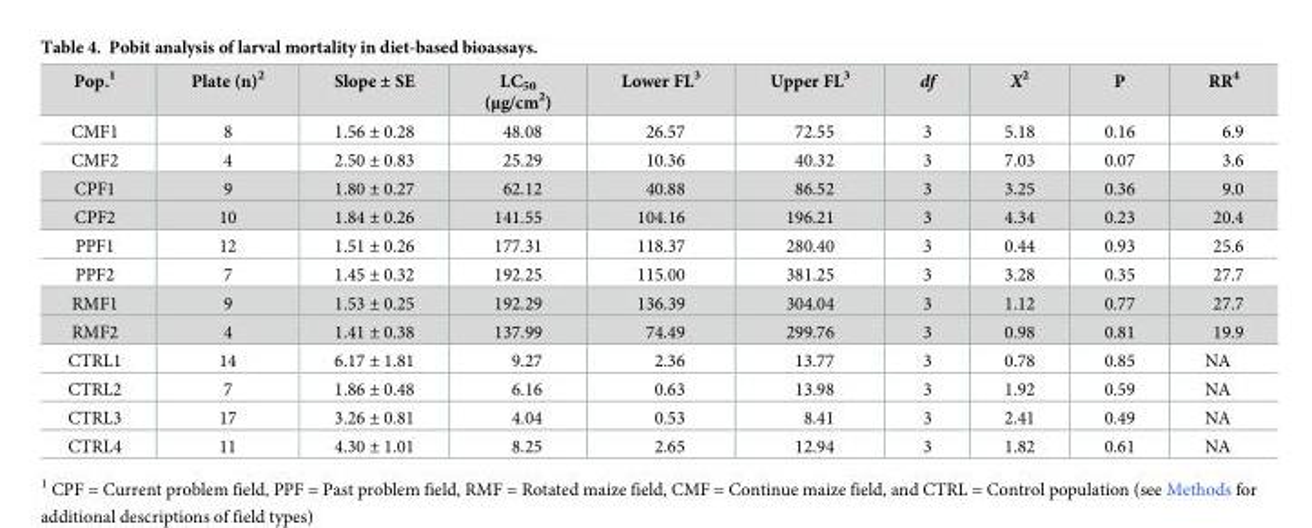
<table><thead><tr><td>Pop.<sup>1</sup></td><td>Plate (n)<sup>2</sup></td><td>Slope ± SE</td><td>LC<sub>50</sub> (μg/cm<sup>2</sup>)</td><td>Lower FL<sup>3</sup></td><td>Upper FL<sup>3</sup></td><td>df</td><td>X<sup>2</sup></td><td>P</td><td>RR<sup>4</sup></td></tr></thead><tbody><tr><td>CMF1</td><td>8</td><td>1.56 ± 0.28</td><td>48.08</td><td>26.57</td><td>72.55</td><td>3</td><td>5.18</td><td>0.16</td><td>6.9</td></tr><tr><td>CMF2</td><td>4</td><td>2.50 ± 0.83</td><td>25.29</td><td>10.36</td><td>40.32</td><td>3</td><td>7.03</td><td>0.07</td><td>3.6</td></tr><tr><td>CPF1</td><td>9</td><td>1.80 ± 0.27</td><td>62.12</td><td>40.88</td><td>86.52</td><td>3</td><td>3.25</td><td>0.36</td><td>9.0</td></tr><tr><td>CPF2</td><td>10</td><td>1.84 ± 0.26</td><td>141.55</td><td>104.16</td><td>196.21</td><td>3</td><td>4.34</td><td>0.23</td><td>20.4</td></tr><tr><td>PPF1</td><td>12</td><td>1.51 ± 0.26</td><td>177.31</td><td>118.37</td><td>280.40</td><td>3</td><td>0.44</td><td>0.93</td><td>25.6</td></tr><tr><td>PPF2</td><td>7</td><td>1.45 ± 0.32</td><td>192.25</td><td>115.00</td><td>381.25</td><td>3</td><td>3.28</td><td>0.35</td><td>27.7</td></tr><tr><td>RMF1</td><td>9</td><td>1.53 ± 0.25</td><td>192.29</td><td>136.39</td><td>304.04</td><td>3</td><td>1.12</td><td>0.77</td><td>27.7</td></tr><tr><td>RMF2</td><td>4</td><td>1.41 ± 0.38</td><td>137.99</td><td>74.49</td><td>299.76</td><td>3</td><td>0.98</td><td>0.81</td><td>19.9</td></tr><tr><td>CTRL1</td><td>14</td><td>6.17 ± 1.81</td><td>9.27</td><td>2.36</td><td>13.77</td><td>3</td><td>0.78</td><td>0.85</td><td>NA</td></tr><tr><td>CTRL2</td><td>7</td><td>1.86 ± 0.48</td><td>6.16</td><td>0.63</td><td>13.98</td><td>3</td><td>1.92</td><td>0.59</td><td>NA</td></tr><tr><td>CTRL3</td><td>17</td><td>3.26 ± 0.81</td><td>4.04</td><td>0.53</td><td>8.41</td><td>3</td><td>2.41</td><td>0.49</td><td>NA</td></tr><tr><td>CTRL4</td><td>11</td><td>4.30 ± 1.01</td><td>8.25</td><td>2.65</td><td>12.94</td><td>3</td><td>1.82</td><td>0.61</td><td>NA</td></tr></tbody></table>